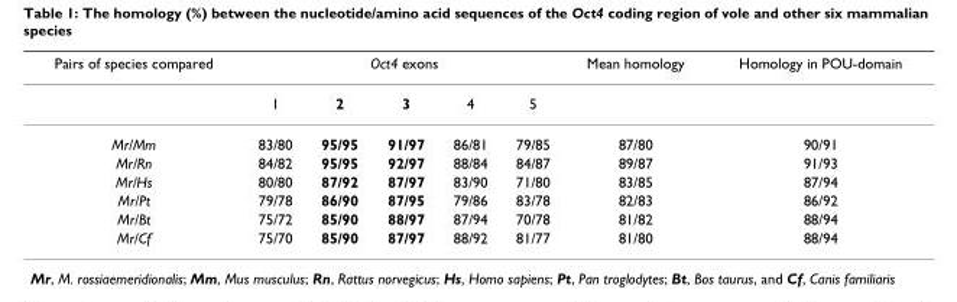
<table><thead><tr><td rowspan="2">Pairs of species compared</td><td colspan="5">Oct4 exons</td><td rowspan="2">Mean homology</td><td rowspan="2">Homology in POU-domain</td></tr><tr><td>1</td><td>2</td><td>3</td><td>4</td><td>5</td></tr></thead><tbody><tr><td>Mr/Mm</td><td>83/80</td><td>95/95</td><td>91/97</td><td>86/81</td><td>79/85</td><td>87/80</td><td>90/91</td></tr><tr><td>Mr/Rn</td><td>84/82</td><td>95/95</td><td>92/97</td><td>88/84</td><td>84/87</td><td>89/87</td><td>91/93</td></tr><tr><td>Mr/Hs</td><td>80/80</td><td>87/92</td><td>87/97</td><td>83/90</td><td>71/80</td><td>83/85</td><td>87/94</td></tr><tr><td>Mr/Pt</td><td>79/78</td><td>86/90</td><td>87/95</td><td>79/86</td><td>83/78</td><td>82/83</td><td>86/92</td></tr><tr><td>Mr/Bt</td><td>75/72</td><td>85/90</td><td>88/97</td><td>87/94</td><td>70/78</td><td>81/82</td><td>88/94</td></tr><tr><td>Mr/Cf</td><td>75/70</td><td>85/90</td><td>87/97</td><td>88/92</td><td>81/77</td><td>81/80</td><td>88/94</td></tr></tbody></table>